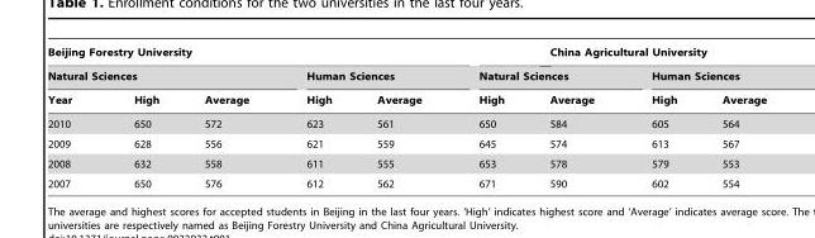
<table><thead><tr><td colspan="6">Beijing Forestry University</td><td colspan="3">China Agricultural University</td></tr><tr><td colspan="3">Natural Sciences</td><td colspan="2">Human Sciences</td><td colspan="2">Natural Sciences</td><td colspan="2">Human Sciences</td></tr><tr><td>Year</td><td>High</td><td>Average</td><td>High</td><td>Average</td><td>High</td><td>Average</td><td>High</td><td>Average</td></tr></thead><tbody><tr><td>2010</td><td>650</td><td>572</td><td>623</td><td>561</td><td>650</td><td>584</td><td>605</td><td>564</td></tr><tr><td>2009</td><td>628</td><td>556</td><td>621</td><td>559</td><td>645</td><td>574</td><td>613</td><td>567</td></tr><tr><td>2008</td><td>632</td><td>558</td><td>611</td><td>555</td><td>653</td><td>578</td><td>579</td><td>553</td></tr><tr><td>2007</td><td>650</td><td>576</td><td>612</td><td>562</td><td>671</td><td>590</td><td>602</td><td>554</td></tr></tbody></table>